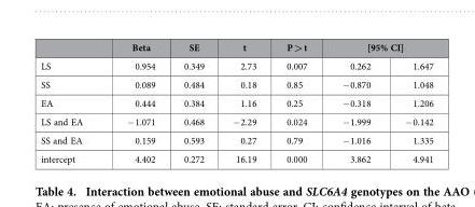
<table><thead><tr><td rowspan="2">LS</td><td rowspan="2">Beta 0.954</td><td rowspan="2">SE 0.349</td><td rowspan="2">t 2.73</td><td rowspan="2">P &gt; t 0.007</td><td colspan="2">[95% CI]</td></tr><tr><td>0.262</td><td>1.647</td></tr></thead><tbody><tr><td>SS</td><td>0.089</td><td>0.484</td><td>0.18</td><td>0.85</td><td>− 0.870</td><td>1.048</td></tr><tr><td>EA</td><td>0.444</td><td>0.384</td><td>1.16</td><td>0.25</td><td>− 0.318</td><td>1.206</td></tr><tr><td>LS and EA</td><td>− 1.071</td><td>0.468</td><td>− 2.29</td><td>0.024</td><td>− 1.999</td><td>− 0.142</td></tr><tr><td>SS and EA</td><td>0.159</td><td>0.593</td><td>0.27</td><td>0.79</td><td>− 1.016</td><td>1.335</td></tr><tr><td>intercept</td><td>4.402</td><td>0.272</td><td>16.19</td><td>0.000</td><td>3.862</td><td>4.941</td></tr></tbody></table>